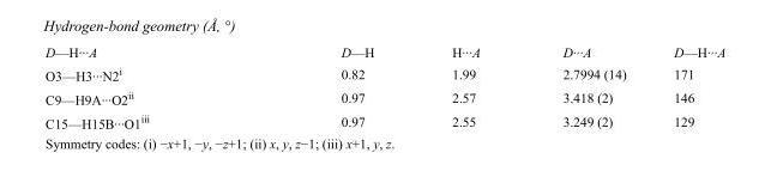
<table><tbody><tr><td>D—H···A</td><td>D—H</td><td>H···A</td><td>D···A</td><td>D—H···A</td></tr><tr><td>O3—H3···N2<sup>i</sup></td><td>0.82</td><td>1.99</td><td>2.7994 (14)</td><td>171</td></tr><tr><td>C9—H9A···O2<sup>ii</sup></td><td>0.97</td><td>2.57</td><td>3.418 (2)</td><td>146</td></tr><tr><td>C15—H15B···O1<sup>iii</sup></td><td>0.97</td><td>2.55</td><td>3.249 (2)</td><td>129</td></tr></tbody></table>